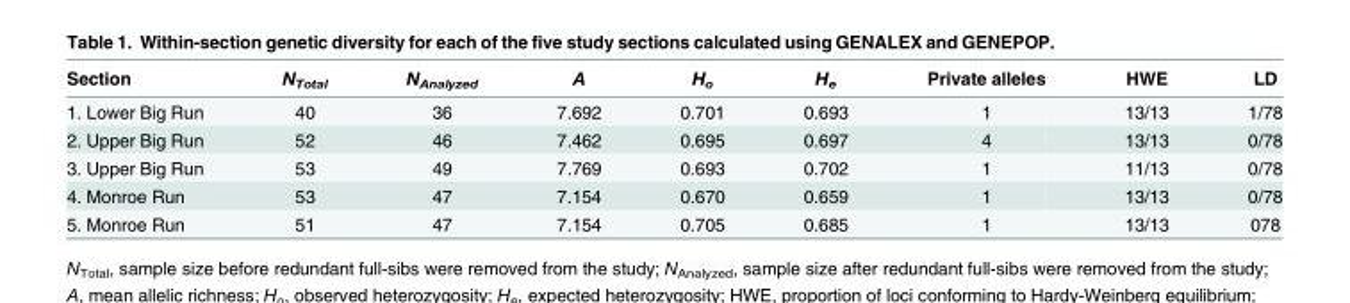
<table><thead><tr><td>Section</td><td>N<sub>Total</sub></td><td>N<sub>Analyzed</sub></td><td>A</td><td>H<sub>o</sub></td><td>H<sub>e</sub></td><td>Private alleles</td><td>HWE</td><td>LD</td></tr></thead><tbody><tr><td>1. Lower Big Run</td><td>40</td><td>36</td><td>7.692</td><td>0.701</td><td>0.693</td><td>1</td><td>13/13</td><td>1/78</td></tr><tr><td>2. Upper Big Run</td><td>52</td><td>46</td><td>7.462</td><td>0.695</td><td>0.697</td><td>4</td><td>13/13</td><td>0/78</td></tr><tr><td>3. Upper Big Run</td><td>53</td><td>49</td><td>7.769</td><td>0.693</td><td>0.702</td><td>1</td><td>11/13</td><td>0/78</td></tr><tr><td>4. Monroe Run</td><td>53</td><td>47</td><td>7.154</td><td>0.670</td><td>0.659</td><td>1</td><td>13/13</td><td>0/78</td></tr><tr><td>5. Monroe Run</td><td>51</td><td>47</td><td>7.154</td><td>0.705</td><td>0.685</td><td>1</td><td>13/13</td><td>078</td></tr></tbody></table>